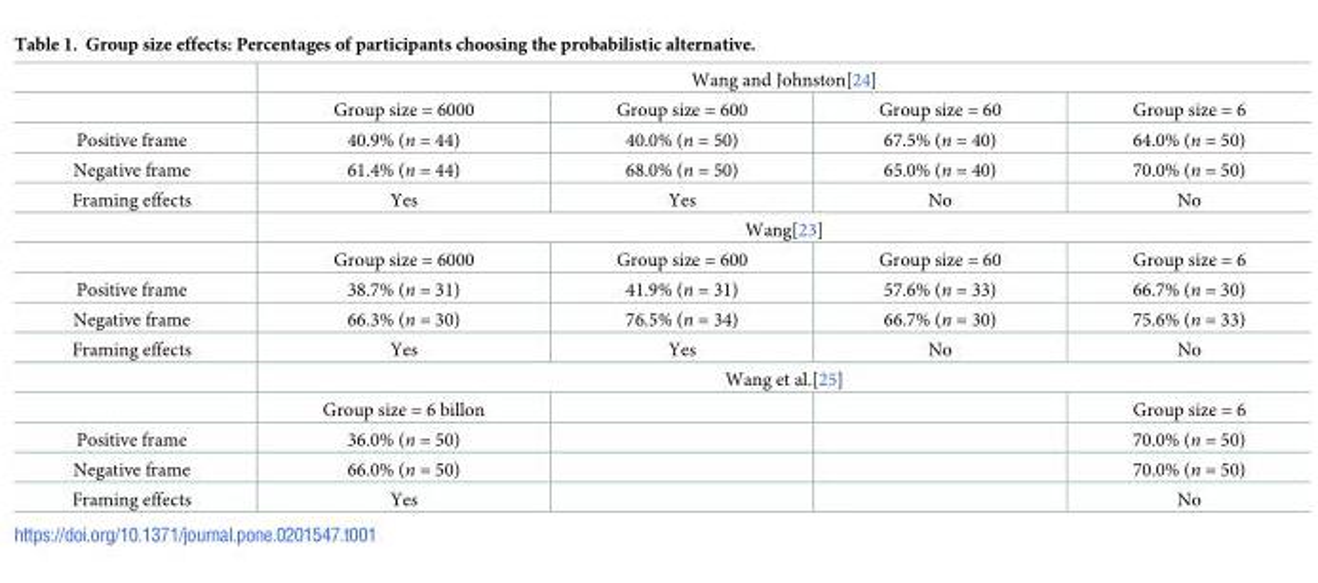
<table><thead><tr><td rowspan="2"></td><td colspan="4">Wang and Johnston[24]</td></tr><tr><td>Group size = 6000</td><td>Group size = 600</td><td>Group size = 60</td><td>Group size = 6</td></tr></thead><tbody><tr><td>Positive frame</td><td>40.9% (n = 44)</td><td>40.0% (n = 50)</td><td>67.5% (n = 40)</td><td>64.0% (n = 50)</td></tr><tr><td>Negative frame</td><td>61.4% (n = 44)</td><td>68.0% (n = 50)</td><td>65.0% (n = 40)</td><td>70.0% (n = 50)</td></tr><tr><td rowspan="3">Framing effects</td><td>Yes</td><td>Yes</td><td>No</td><td>No</td></tr><tr><td colspan="4">Wang[23]</td></tr><tr><td>Group size = 6000</td><td>Group size = 600</td><td>Group size = 60</td><td>Group size = 6</td></tr><tr><td>Positive frame</td><td>38.7% (n = 31)</td><td>41.9% (n = 31)</td><td>57.6% (n = 33)</td><td>66.7% (n = 30)</td></tr><tr><td>Negative frame</td><td>66.3% (n = 30)</td><td>76.5% (n = 34)</td><td>66.7% (n = 30)</td><td>75.6% (n = 33)</td></tr><tr><td rowspan="3">Framing effects</td><td>Yes</td><td>Yes</td><td>No</td><td>No</td></tr><tr><td colspan="4">Wang et al.[25]</td></tr><tr><td>Group size = 6 billon</td><td></td><td></td><td>Group size = 6</td></tr><tr><td>Positive frame</td><td>36.0% (n = 50)</td><td></td><td></td><td>70.0% (n = 50)</td></tr><tr><td>Negative frame</td><td>66.0% (n = 50)</td><td></td><td></td><td>70.0% (n = 50)</td></tr><tr><td>Framing effects</td><td>Yes</td><td></td><td></td><td>No</td></tr></tbody></table>